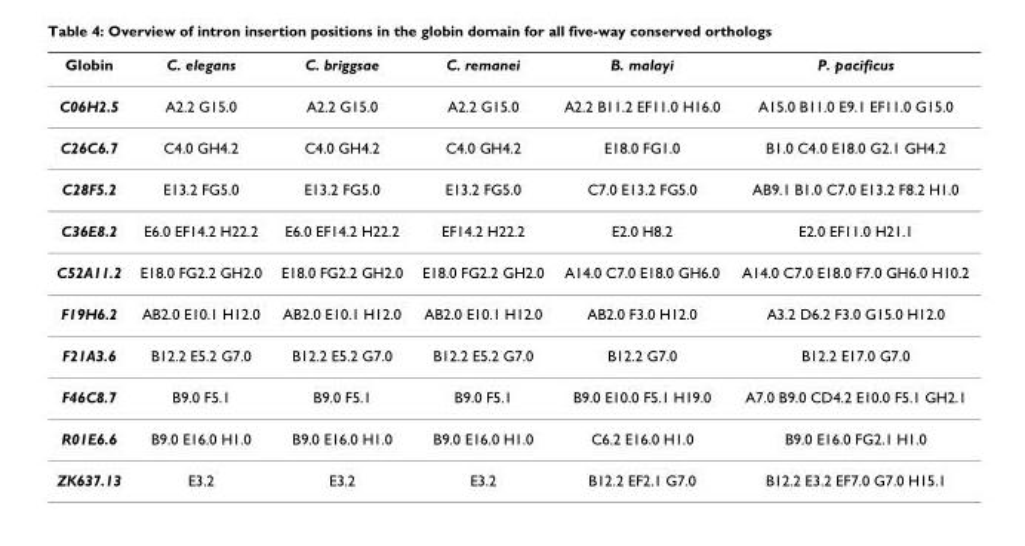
<table><thead><tr><td>Globin</td><td>C. elegans</td><td>C. briggsae</td><td>C. remanei</td><td>B. malayi</td><td>P. pacificus</td></tr></thead><tbody><tr><td>C06H2.5</td><td>A2.2 G15.0</td><td>A2.2 G15.0</td><td>A2.2 G15.0</td><td>A2.2 B11.2 EF11.0 H16.0</td><td>A15.0 B11.0 E9.1 EF11.0 G15.0</td></tr><tr><td>C26C6.7</td><td>C4.0 GH4.2</td><td>C4.0 GH4.2</td><td>C4.0 GH4.2</td><td>E18.0 FG1.0</td><td>B1.0 C4.0 E18.0 G2.1 GH4.2</td></tr><tr><td>C28F5.2</td><td>E13.2 FG5.0</td><td>E13.2 FG5.0</td><td>E13.2 FG5.0</td><td>C7.0 E13.2 FG5.0</td><td>AB9.1 B1.0 C7.0 E13.2 F8.2 H1.0</td></tr><tr><td>C36E8.2</td><td>E6.0 EF14.2 H22.2</td><td>E6.0 EF14.2 H22.2</td><td>EF14.2 H22.2</td><td>E2.0 H8.2</td><td>E2.0 EF11.0 H21.1</td></tr><tr><td>C52A11.2</td><td>E18.0 FG2.2 GH2.0</td><td>E18.0 FG2.2 GH2.0</td><td>E18.0 FG2.2 GH2.0</td><td>A14.0 C7.0 E18.0 GH6.0</td><td>A14.0 C7.0 E18.0 F7.0 GH6.0 H10.2</td></tr><tr><td>F19H6.2</td><td>AB2.0 E10.1 H12.0</td><td>AB2.0 E10.1 H12.0</td><td>AB2.0 E10.1 H12.0</td><td>AB2.0 F3.0 H12.0</td><td>A3.2 D6.2 F3.0 G15.0 H12.0</td></tr><tr><td>F21A3.6</td><td>B12.2 E5.2 G7.0</td><td>B12.2 E5.2 G7.0</td><td>B12.2 E5.2 G7.0</td><td>B12.2 G7.0</td><td>B12.2 E17.0 G7.0</td></tr><tr><td>F46C8.7</td><td>B9.0 F5.1</td><td>B9.0 F5.1</td><td>B9.0 F5.1</td><td>B9.0 E10.0 F5.1 H19.0</td><td>A7.0 B9.0 CD4.2 E10.0 F5.1 GH2.1</td></tr><tr><td>R01E6.6</td><td>B9.0 E16.0 H1.0</td><td>B9.0 E16.0 H1.0</td><td>B9.0 E16.0 H1.0</td><td>C6.2 E16.0 H1.0</td><td>B9.0 E16.0 FG2.1 H1.0</td></tr><tr><td>ZK637.13</td><td>E3.2</td><td>E3.2</td><td>E3.2</td><td>B12.2 EF2.1 G7.0</td><td>B12.2 E3.2 EF7.0 G7.0 H15.1</td></tr></tbody></table>